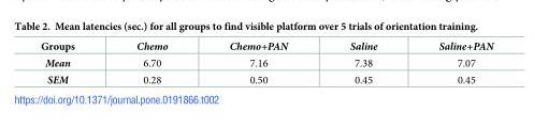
<table><thead><tr><td>Groups</td><td>Chemo</td><td>Chemo+PAN</td><td>Saline</td><td>Saline+PAN</td></tr></thead><tbody><tr><td>Mean</td><td>6.70</td><td>7.16</td><td>7.38</td><td>7.07</td></tr><tr><td>SEM</td><td>0.28</td><td>0.50</td><td>0.45</td><td>0.45</td></tr></tbody></table>